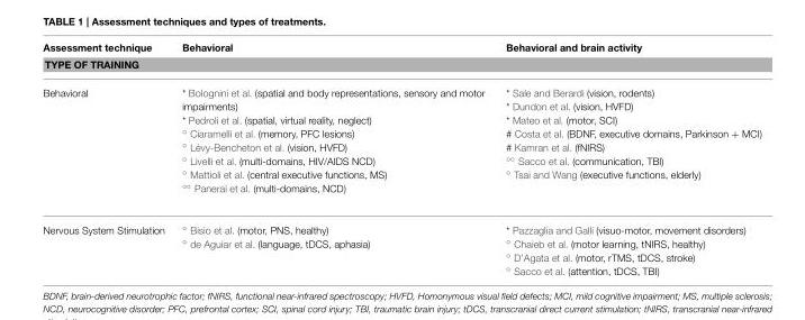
<table><thead><tr><td>Assessment technique</td><td>Behavioral</td><td>Behavioral and brain activity</td></tr><tr><td colspan="3">TYPE OF TRAINING</td></tr></thead><tbody><tr><td>Behavioral</td><td>* Bolognini et al. (spatial and body representations, sensory and motor impairments) * Pedroli et al. (spatial, virtual reality, neglect) <sup>◦</sup> Ciaramelli et al. (memory, PFC lesions) <sup>◦</sup> Lévy-Bencheton et al. (vision, HVFD) <sup>◦</sup> Livelli et al. (multi-domains, HIV/AIDS NCD) <sup>◦</sup> Mattioli et al. (central executive functions, MS) <sup>◦◦</sup> Panerai et al. (multi-domains, NCD)</td><td>* Sale and Berardi (vision, rodents) * Dundon et al. (vision, HVFD) * Mateo et al. (motor, SCI) # Costa et al. (BDNF, executive domains, Parkinson + MCI) # Kamran et al. (fNIRS) <sup>◦◦</sup> Sacco et al. (communication, TBI) <sup>◦</sup> Tsai and Wang (executive functions, elderly)</td></tr><tr><td>Nervous System Stimulation</td><td><sup>◦</sup> Bisio et al. (motor, PNS, healthy) <sup>◦</sup> de Aguiar et al. (language, tDCS, aphasia)</td><td>* Pazzaglia and Galli (visuo-motor, movement disorders) <sup>◦</sup> Chaieb et al. (motor learning, tNIRS, healthy) <sup>◦</sup> D’Agata et al. (motor, rTMS, tDCS, stroke) <sup>◦</sup> Sacco et al. (attention, tDCS, TBI)</td></tr></tbody></table>